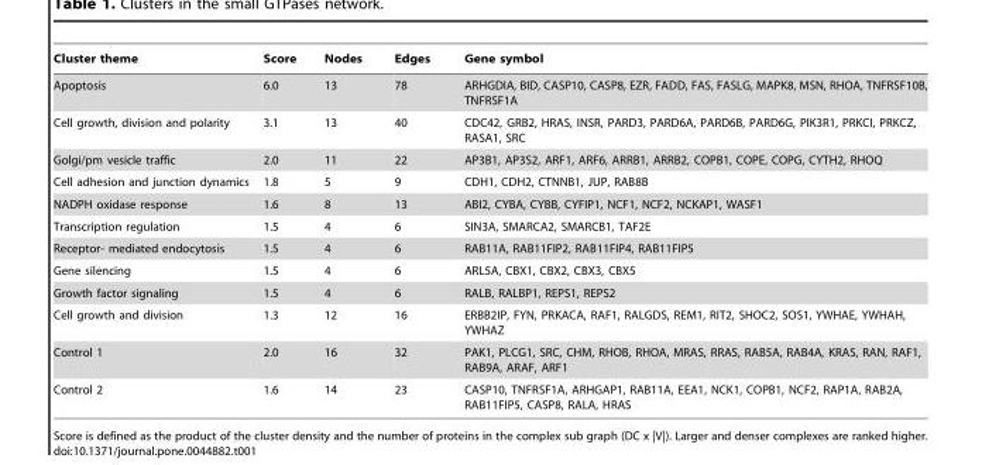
<table><thead><tr><td>Cluster theme</td><td>Score</td><td>Nodes</td><td>Edges</td><td>Gene symbol</td></tr></thead><tbody><tr><td>Apoptosis</td><td>6.0</td><td>13</td><td>78</td><td>ARHGDIA, BID, CASP10, CASP8, EZR, FADD, FAS, FASLG, MAPK8, MSN, RHOA, TNFRSF10B, TNFRSF1A</td></tr><tr><td>Cell growth, division and polarity</td><td>3.1</td><td>13</td><td>40</td><td>CDC42, GRB2, HRAS, INSR, PARD3, PARD6A, PARD6B, PARD6G, PIK3R1, PRKCI, PRKCZ, RASA1, SRC</td></tr><tr><td>Golgi/pm vesicle traffic</td><td>2.0</td><td>11</td><td>22</td><td>AP3B1, AP3S2, ARF1, ARF6, ARRB1, ARRB2, COPB1, COPE, COPG, CYTH2, RHOQ</td></tr><tr><td>Cell adhesion and junction dynamics</td><td>1.8</td><td>5</td><td>9</td><td>CDH1, CDH2, CTNNB1, JUP, RAB8B</td></tr><tr><td>NADPH oxidase response</td><td>1.6</td><td>8</td><td>13</td><td>ABI2, CYBA, CYBB, CYFIP1, NCF1, NCF2, NCKAP1, WASF1</td></tr><tr><td>Transcription regulation</td><td>1.5</td><td>4</td><td>6</td><td>SIN3A, SMARCA2, SMARCB1, TAF2E</td></tr><tr><td>Receptor- mediated endocytosis</td><td>1.5</td><td>4</td><td>6</td><td>RAB11A, RAB11FIP2, RAB11FIP4, RAB11FIP5</td></tr><tr><td>Gene silencing</td><td>1.5</td><td>4</td><td>6</td><td>ARL5A, CBX1, CBX2, CBX3, CBX5</td></tr><tr><td>Growth factor signaling</td><td>1.5</td><td>4</td><td>6</td><td>RALB, RALBP1, REPS1, REPS2</td></tr><tr><td>Cell growth and division</td><td>1.3</td><td>12</td><td>16</td><td>ERBB2IP, FYN, PRKACA, RAF1, RALGDS, REM1, RIT2, SHOC2, SOS1, YWHAE, YWHAH, YWHAZ</td></tr><tr><td>Control 1</td><td>2.0</td><td>16</td><td>32</td><td>PAK1, PLCG1, SRC, CHM, RHOB, RHOA, MRAS, RRAS, RAB5A, RAB4A, KRAS, RAN, RAF1, RAB9A, ARAF, ARF1</td></tr><tr><td>Control 2</td><td>1.6</td><td>14</td><td>23</td><td>CASP10, TNFRSF1A, ARHGAP1, RAB11A, EEA1, NCK1, COPB1, NCF2, RAP1A, RAB2A, RAB11FIP5, CASP8, RALA, HRAS</td></tr></tbody></table>